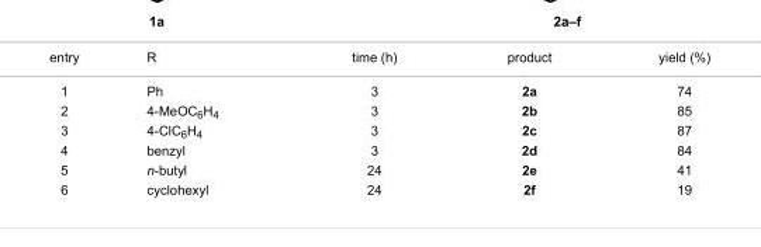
<table><tbody><tr><td>entry</td><td>R</td><td>time (h)</td><td>product</td><td>yield (%)</td></tr><tr><td>1</td><td>Ph</td><td>3</td><td>2a</td><td>74</td></tr><tr><td>2</td><td>4-MeOC<sub>6</sub>H<sub>4</sub></td><td>3</td><td>2b</td><td>85</td></tr><tr><td>3</td><td>4-ClC<sub>6</sub>H<sub>4</sub></td><td>3</td><td>2c</td><td>87</td></tr><tr><td>4</td><td>benzyl</td><td>3</td><td>2d</td><td>84</td></tr><tr><td>5</td><td>n-butyl</td><td>24</td><td>2e</td><td>41</td></tr><tr><td>6</td><td>cyclohexyl</td><td>24</td><td>2f</td><td>19</td></tr></tbody></table>